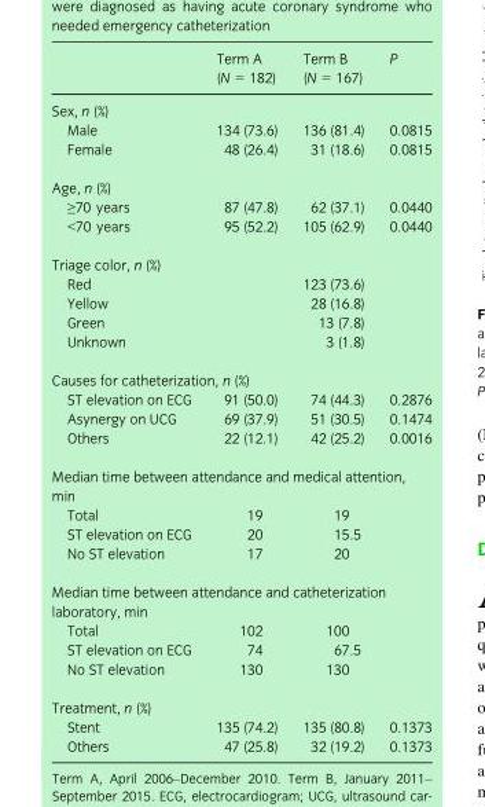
<table><thead><tr><td rowspan="2"></td><td rowspan="2">Term A (N = 182)</td><td rowspan="2">Term B (N = 167)</td><td rowspan="2">P</td></tr><tr></tr></thead><tbody><tr><td colspan="4">Sex, n (%)</td></tr><tr><td>Male</td><td>134 (73.6)</td><td>136 (81.4)</td><td>0.0815</td></tr><tr><td>Female</td><td>48 (26.4)</td><td>31 (18.6)</td><td>0.0815</td></tr><tr><td colspan="4">Age, n (%)</td></tr><tr><td>≥70 years</td><td>87 (47.8)</td><td>62 (37.1)</td><td>0.0440</td></tr><tr><td>&lt;70 years</td><td>95 (52.2)</td><td>105 (62.9)</td><td>0.0440</td></tr><tr><td colspan="4">Triage color, n (%)</td></tr><tr><td>Red</td><td></td><td>123 (73.6)</td><td></td></tr><tr><td>Yellow</td><td></td><td>28 (16.8)</td><td></td></tr><tr><td>Green</td><td></td><td>13 (7.8)</td><td></td></tr><tr><td>Unknown</td><td></td><td>3 (1.8)</td><td></td></tr><tr><td colspan="4">Causes for catheterization, n (%)</td></tr><tr><td>ST elevation on ECG</td><td>91 (50.0)</td><td>74 (44.3)</td><td>0.2876</td></tr><tr><td>Asynergy on UCG</td><td>69 (37.9)</td><td>51 (30.5)</td><td>0.1474</td></tr><tr><td>Others</td><td>22 (12.1)</td><td>42 (25.2)</td><td>0.0016</td></tr><tr><td colspan="4">Median time between attendance and medical attention, min</td></tr><tr><td>Total</td><td>19</td><td>19</td><td></td></tr><tr><td>ST elevation on ECG</td><td>20</td><td>15.5</td><td></td></tr><tr><td>No ST elevation</td><td>17</td><td>20</td><td></td></tr><tr><td colspan="4">Median time between attendance and catheterization laboratory, min</td></tr><tr><td>Total</td><td>102</td><td>100</td><td></td></tr><tr><td>ST elevation on ECG</td><td>74</td><td>67.5</td><td></td></tr><tr><td>No ST elevation</td><td>130</td><td>130</td><td></td></tr><tr><td colspan="4">Treatment, n (%)</td></tr><tr><td>Stent</td><td>135 (74.2)</td><td>135 (80.8)</td><td>0.1373</td></tr><tr><td>Others</td><td>47 (25.8)</td><td>32 (19.2)</td><td>0.1373</td></tr></tbody></table>